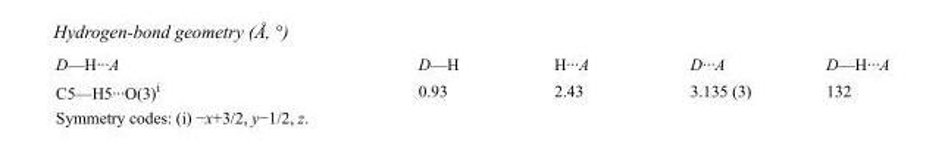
<table><tbody><tr><td>D—H···A</td><td>D—H</td><td>H···A</td><td>D···A</td><td>D—H···A</td></tr><tr><td>C5—H5···O(3)<sup>i</sup></td><td>0.93</td><td>2.43</td><td>3.135 (3)</td><td>132</td></tr></tbody></table>